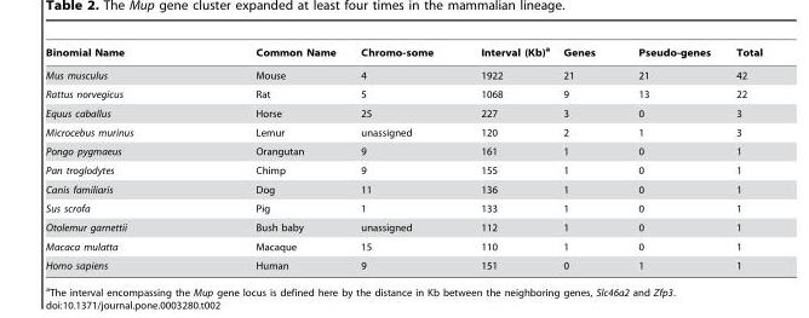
<table><thead><tr><td>Binomial Name</td><td>Common Name</td><td>Chromo-some</td><td>Interval (Kb)<sup>a</sup></td><td>Genes</td><td>Pseudo-genes</td><td>Total</td></tr></thead><tbody><tr><td>Mus musculus</td><td>Mouse</td><td>4</td><td>1922</td><td>21</td><td>21</td><td>42</td></tr><tr><td>Rattus norvegicus</td><td>Rat</td><td>5</td><td>1068</td><td>9</td><td>13</td><td>22</td></tr><tr><td>Equus caballus</td><td>Horse</td><td>25</td><td>227</td><td>3</td><td>0</td><td>3</td></tr><tr><td>Microcebus murinus</td><td>Lemur</td><td>unassigned</td><td>120</td><td>2</td><td>1</td><td>3</td></tr><tr><td>Pongo pygmaeus</td><td>Orangutan</td><td>9</td><td>161</td><td>1</td><td>0</td><td>1</td></tr><tr><td>Pan troglodytes</td><td>Chimp</td><td>9</td><td>155</td><td>1</td><td>0</td><td>1</td></tr><tr><td>Canis familiaris</td><td>Dog</td><td>11</td><td>136</td><td>1</td><td>0</td><td>1</td></tr><tr><td>Sus scrofa</td><td>Pig</td><td>1</td><td>133</td><td>1</td><td>0</td><td>1</td></tr><tr><td>Otolemur garnettii</td><td>Bush baby</td><td>unassigned</td><td>112</td><td>1</td><td>0</td><td>1</td></tr><tr><td>Macaca mulatta</td><td>Macaque</td><td>15</td><td>110</td><td>1</td><td>0</td><td>1</td></tr><tr><td>Homo sapiens</td><td>Human</td><td>9</td><td>151</td><td>0</td><td>1</td><td>1</td></tr></tbody></table>